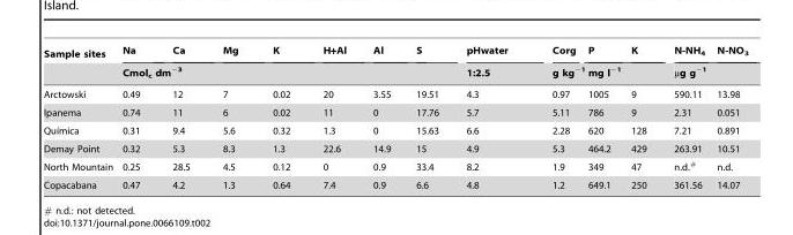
<table><thead><tr><td rowspan="2">Sample sites</td><td>Na</td><td>Ca</td><td>Mg</td><td>K</td><td>H+Al</td><td>Al</td><td>S</td><td rowspan="2">pHwater 1:2.5</td><td rowspan="2">Corg g kg<sup>−1</sup></td><td>P</td><td>K</td><td>N-NH<sub>4</sub></td><td>N-NO<sub>3</sub></td></tr><tr><td colspan="7">Cmol<sub>c</sub> dm<sup>−3</sup></td><td colspan="2">mg l<sup>−1</sup></td><td colspan="2">µg g<sup>−1</sup></td></tr></thead><tbody><tr><td>Arctowski</td><td>0.49</td><td>12</td><td>7</td><td>0.02</td><td>20</td><td>3.55</td><td>19.51</td><td>4.3</td><td>0.97</td><td>1005</td><td>9</td><td>590.11</td><td>13.98</td></tr><tr><td>Ipanema</td><td>0.74</td><td>11</td><td>6</td><td>0.02</td><td>11</td><td>0</td><td>17.76</td><td>5.7</td><td>5.11</td><td>786</td><td>9</td><td>2.31</td><td>0.051</td></tr><tr><td>Quı´mica</td><td>0.31</td><td>9.4</td><td>5.6</td><td>0.32</td><td>1.3</td><td>0</td><td>15.63</td><td>6.6</td><td>2.28</td><td>620</td><td>128</td><td>7.21</td><td>0.891</td></tr><tr><td>Demay Point</td><td>0.32</td><td>5.3</td><td>8.3</td><td>1.3</td><td>22.6</td><td>14.9</td><td>15</td><td>4.9</td><td>5.3</td><td>464.2</td><td>429</td><td>263.91</td><td>10.51</td></tr><tr><td>North Mountain</td><td>0.25</td><td>28.5</td><td>4.5</td><td>0.12</td><td>0</td><td>0.9</td><td>33.4</td><td>8.2</td><td>1.9</td><td>349</td><td>47</td><td>n.d.<sup>#</sup></td><td>n.d.</td></tr><tr><td>Copacabana</td><td>0.47</td><td>4.2</td><td>1.3</td><td>0.64</td><td>7.4</td><td>0.9</td><td>6.6</td><td>4.8</td><td>1.2</td><td>649.1</td><td>250</td><td>361.56</td><td>14.07</td></tr></tbody></table>